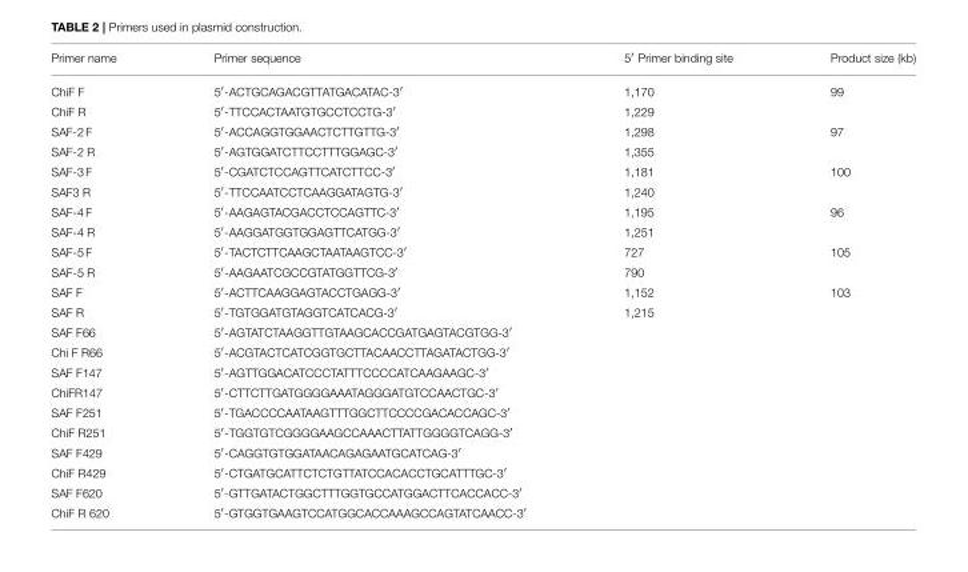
<table><thead><tr><td>Primer name</td><td>Primer sequence</td><td>5′ Primer binding site</td><td>Product size (kb)</td></tr></thead><tbody><tr><td>ChiF F</td><td>5′-ACTGCAGACGTTATGACATAC-3′</td><td>1,170</td><td>99</td></tr><tr><td>ChiF R</td><td>5′-TTCCACTAATGTGCCTCCTG-3′</td><td>1,229</td><td></td></tr><tr><td>SAF-2 F</td><td>5′-ACCAGGTGGAACTCTTGTTG-3′</td><td>1,298</td><td>97</td></tr><tr><td>SAF-2 R</td><td>5′-AGTGGATCTTCCTTTGGAGC-3′</td><td>1,355</td><td></td></tr><tr><td>SAF-3 F</td><td>5′-CGATCTCCAGTTCATCTTCC-3′</td><td>1,181</td><td>100</td></tr><tr><td>SAF3 R</td><td>5′-TTCCAATCCTCAAGGATAGTG-3′</td><td>1,240</td><td></td></tr><tr><td>SAF-4 F</td><td>5′-AAGAGTACGACCTCCAGTTC-3′</td><td>1,195</td><td>96</td></tr><tr><td>SAF-4 R</td><td>5′-AAGGATGGTGGAGTTCATGG-3′</td><td>1,251</td><td></td></tr><tr><td>SAF-5 F</td><td>5′-TACTCTTCAAGCTAATAAGTCC-3′</td><td>727</td><td>105</td></tr><tr><td>SAF-5 R</td><td>5′-AAGAATCGCCGTATGGTTCG-3′</td><td>790</td><td></td></tr><tr><td>SAF F</td><td>5′-ACTTCAAGGAGTACCTGAGG-3′</td><td>1,152</td><td>103</td></tr><tr><td>SAF R</td><td>5′-TGTGGATGTAGGTCATCACG-3′</td><td>1,215</td><td></td></tr><tr><td>SAF F66</td><td>5′-AGTATCTAAGGTTGTAAGCACCGATGAGTACGTGG-3′</td><td></td><td></td></tr><tr><td>Chi F R66</td><td>5′-ACGTACTCATCGGTGCTTACAACCTTAGATACTGG-3′</td><td></td><td></td></tr><tr><td>SAF F147</td><td>5′-AGTTGGACATCCCTATTTCCCCATCAAGAAGC-3′</td><td></td><td></td></tr><tr><td>ChiFR147</td><td>5′-CTTCTTGATGGGGAAATAGGGATGTCCAACTGC-3′</td><td></td><td></td></tr><tr><td>SAF F251</td><td>5′-TGACCCCAATAAGTTTGGCTTCCCCGACACCAGC-3′</td><td></td><td></td></tr><tr><td>ChiF R251</td><td>5′-TGGTGTCGGGGAAGCCAAACTTATTGGGGTCAGG-3′</td><td></td><td></td></tr><tr><td>SAF F429</td><td>5′-CAGGTGTGGATAACAGAGAATGCATCAG-3′</td><td></td><td></td></tr><tr><td>ChiF R429</td><td>5′-CTGATGCATTCTCTGTTATCCACACCTGCATTTGC-3′</td><td></td><td></td></tr><tr><td>SAF F620</td><td>5′-GTTGATACTGGCTTTGGTGCCATGGACTTCACCACC-3′</td><td></td><td></td></tr><tr><td>ChiF R 620</td><td>5′-GTGGTGAAGTCCATGGCACCAAAGCCAGTATCAACC-3′</td><td></td><td></td></tr></tbody></table>